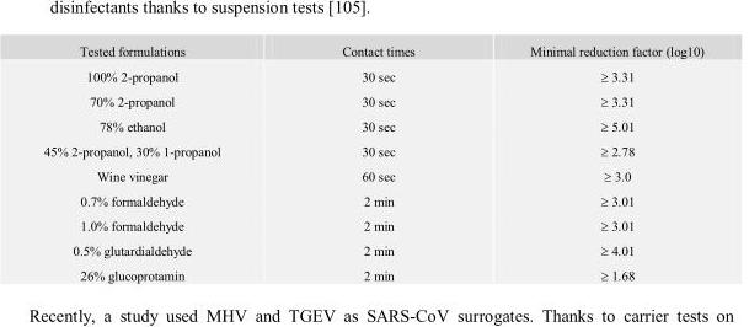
<table><thead><tr><td>Tested formulations</td><td>Contact times</td><td>Minimal reduction factor (log10)</td></tr></thead><tbody><tr><td>100% 2-propanol</td><td>30 sec</td><td>≥ 3.31</td></tr><tr><td>70% 2-propanol</td><td>30 sec</td><td>≥ 3.31</td></tr><tr><td>78% ethanol</td><td>30 sec</td><td>≥ 5.01</td></tr><tr><td>45% 2-propanol, 30% 1-propanol</td><td>30 sec</td><td>≥ 2.78</td></tr><tr><td>Wine vinegar</td><td>60 sec</td><td>≥ 3.0</td></tr><tr><td>0.7% formaldehyde</td><td>2 min</td><td>≥ 3.01</td></tr><tr><td>1.0% formaldehyde</td><td>2 min</td><td>≥ 3.01</td></tr><tr><td>0.5% glutardialdehyde</td><td>2 min</td><td>≥ 4.01</td></tr><tr><td>26% glucoprotamin</td><td>2 min</td><td>≥ 1.68</td></tr></tbody></table>